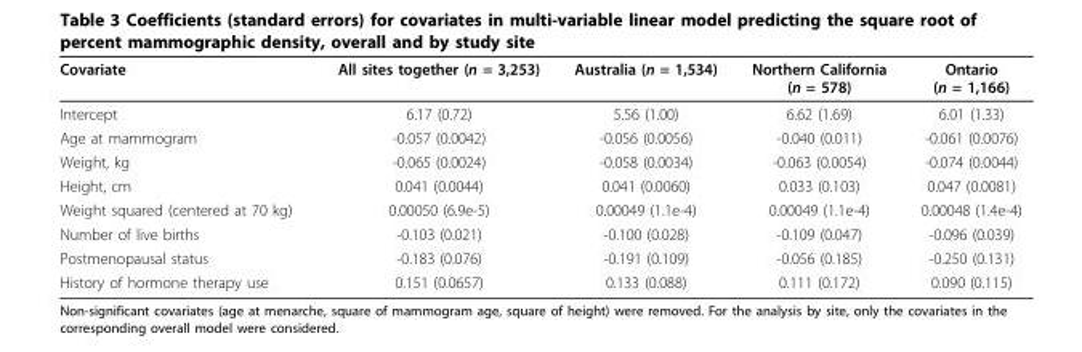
<table><thead><tr><td>Covariate</td><td>All sites together (n = 3,253)</td><td>Australia (n = 1,534)</td><td>Northern California (n = 578)</td><td>Ontario (n = 1,166)</td></tr></thead><tbody><tr><td>Intercept</td><td>6.17 (0.72)</td><td>5.56 (1.00)</td><td>6.62 (1.69)</td><td>6.01 (1.33)</td></tr><tr><td>Age at mammogram</td><td>-0.057 (0.0042)</td><td>-0.056 (0.0056)</td><td>-0.040 (0.011)</td><td>-0.061 (0.0076)</td></tr><tr><td>Weight, kg</td><td>-0.065 (0.0024)</td><td>-0.058 (0.0034)</td><td>-0.063 (0.0054)</td><td>-0.074 (0.0044)</td></tr><tr><td>Height, cm</td><td>0.041 (0.0044)</td><td>0.041 (0.0060)</td><td>0.033 (0.103)</td><td>0.047 (0.0081)</td></tr><tr><td>Weight squared (centered at 70 kg)</td><td>0.00050 (6.9e-5)</td><td>0.00049 (1.1e-4)</td><td>0.00049 (1.1e-4)</td><td>0.00048 (1.4e-4)</td></tr><tr><td>Number of live births</td><td>-0.103 (0.021)</td><td>-0.100 (0.028)</td><td>-0.109 (0.047)</td><td>-0.096 (0.039)</td></tr><tr><td>Postmenopausal status</td><td>-0.183 (0.076)</td><td>-0.191 (0.109)</td><td>-0.056 (0.185)</td><td>-0.250 (0.131)</td></tr><tr><td>History of hormone therapy use</td><td>0.151 (0.0657)</td><td>0.133 (0.088)</td><td>0.111 (0.172)</td><td>0.090 (0.115)</td></tr></tbody></table>